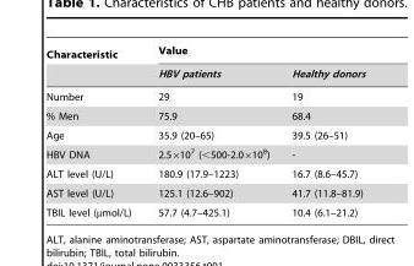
<table><thead><tr><td rowspan="2">Characteristic</td><td colspan="2">Value</td></tr><tr><td>HBV patients</td><td>Healthy donors</td></tr></thead><tbody><tr><td>Number</td><td>29</td><td>19</td></tr><tr><td>% Men</td><td>75.9</td><td>68.4</td></tr><tr><td>Age</td><td>35.9 (20–65)</td><td>39.5 (26–51)</td></tr><tr><td>HBV DNA</td><td>2.5×10<sup>7</sup> (&lt;500-2.0×10<sup>8</sup>)</td><td>-</td></tr><tr><td>ALT level (U/L)</td><td>180.9 (17.9–1223)</td><td>16.7 (8.6–45.7)</td></tr><tr><td>AST level (U/L)</td><td>125.1 (12.6–902)</td><td>41.7 (11.8–81.9)</td></tr><tr><td>TBIL level (µmol/L)</td><td>57.7 (4.7–425.1)</td><td>10.4 (6.1–21.2)</td></tr></tbody></table>